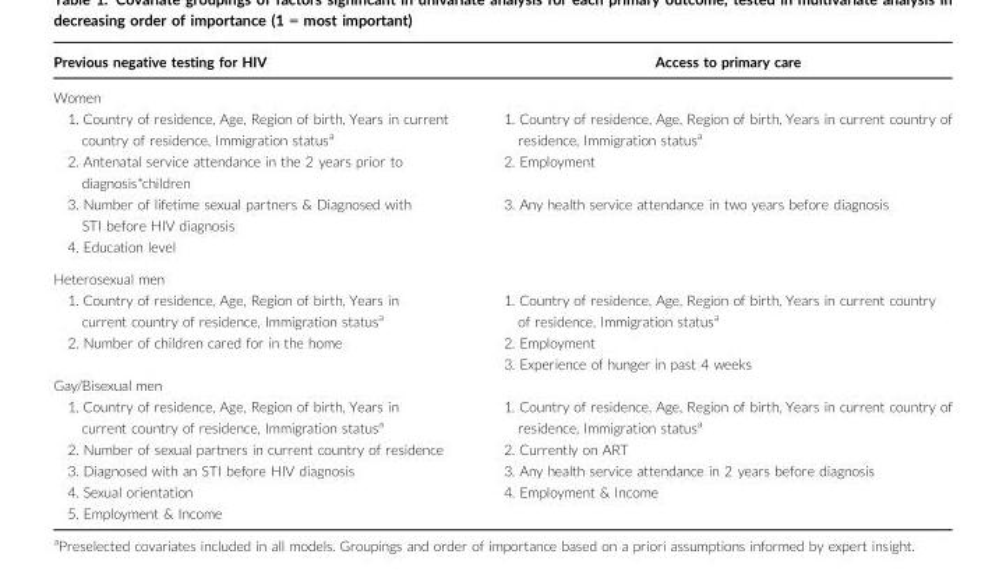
<table><thead><tr><td>Previous negative testing for HIV</td><td>Access to primary care</td></tr></thead><tbody><tr><td colspan="2">Women</td></tr><tr><td>1. Country of residence, Age, Region of birth, Years in current country of residence, Immigration status<sup>a</sup></td><td>1. Country of residence, Age, Region of birth, Years in current country of residence, Immigration status<sup>a</sup></td></tr><tr><td>2. Antenatal service attendance in the 2 years prior to diagnosis*children</td><td>2. Employment</td></tr><tr><td>3. Number of lifetime sexual partners &amp; Diagnosed with STI before HIV diagnosis</td><td>3. Any health service attendance in two years before diagnosis</td></tr><tr><td colspan="2">4. Education level</td></tr><tr><td colspan="2">Heterosexual men</td></tr><tr><td>1. Country of residence, Age, Region of birth, Years in current country of residence, Immigration status<sup>a</sup></td><td>1. Country of residence, Age, Region of birth, Years in current country of residence, Immigration status<sup>a</sup></td></tr><tr><td rowspan="2">2. Number of children cared for in the home</td><td>2. Employment</td></tr><tr><td>3. Experience of hunger in past 4 weeks</td></tr><tr><td colspan="2">Gay/Bisexual men</td></tr><tr><td>1. Country of residence, Age, Region of birth, Years in current country of residence, Immigration status<sup>a</sup></td><td>1. Country of residence, Age, Region of birth, Years in current country of residence, Immigration status<sup>a</sup></td></tr><tr><td>2. Number of sexual partners in current country of residence</td><td>2. Currently on ART</td></tr><tr><td>3. Diagnosed with an STI before HIV diagnosis</td><td>3. Any health service attendance in 2 years before diagnosis</td></tr><tr><td>4. Sexual orientation</td><td>4. Employment &amp; Income</td></tr><tr><td>5. Employment &amp; Income</td><td></td></tr></tbody></table>